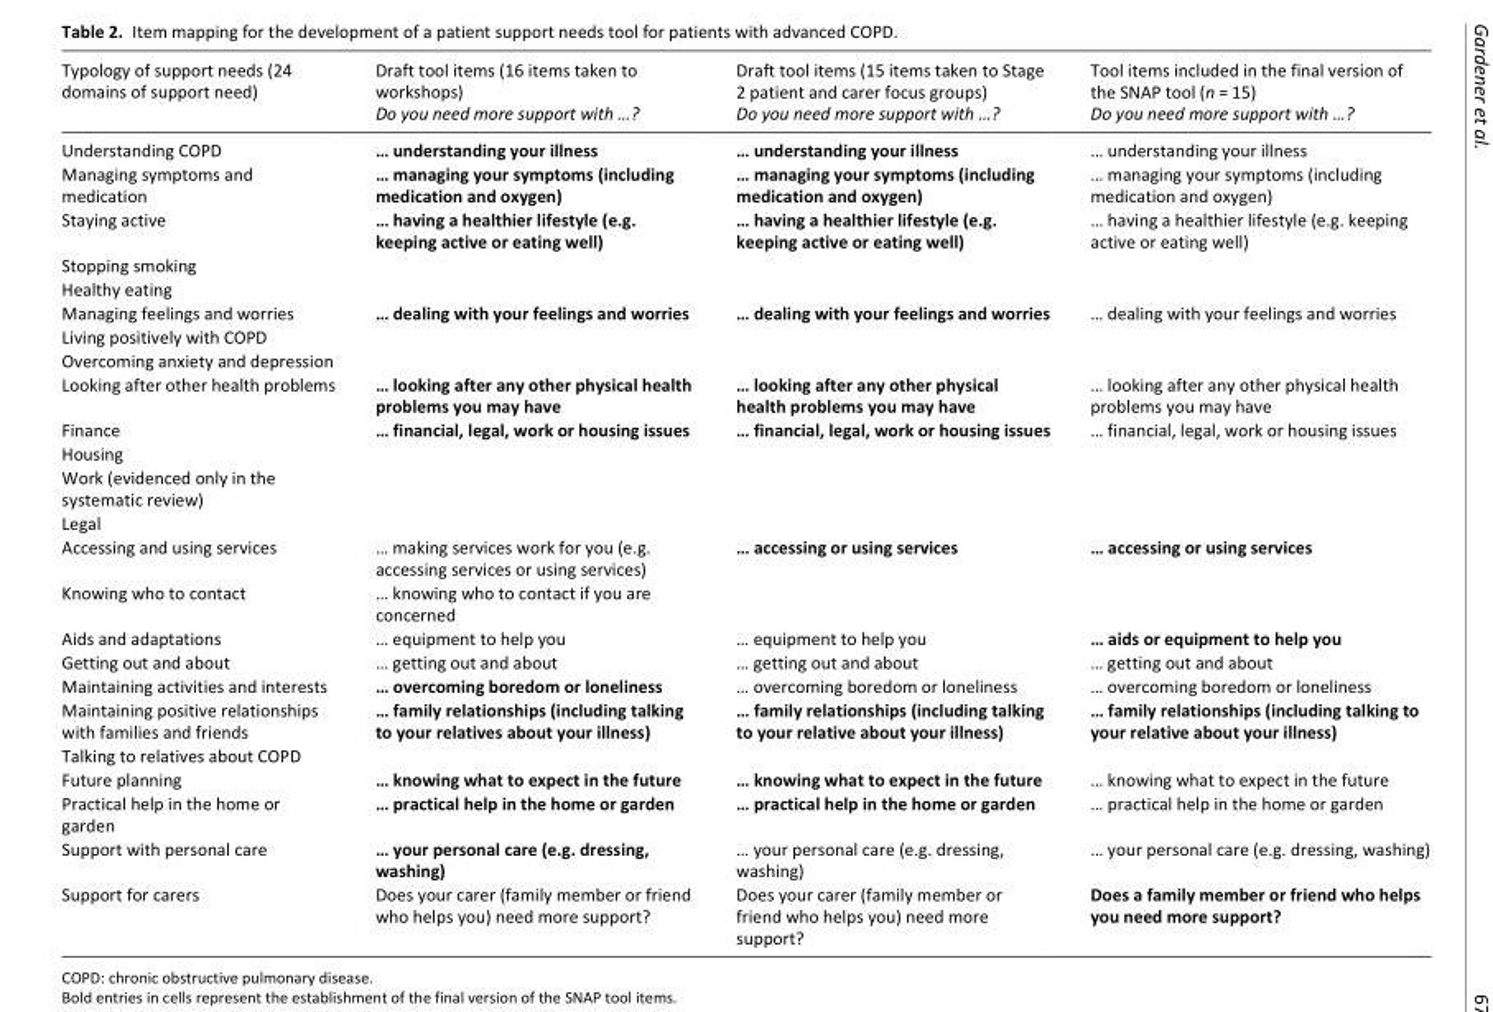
<table><thead><tr><td>Typology of support needs (24 domains of support need)</td><td>Draft tool items (16 items taken to workshops) Do you need more support with …?</td><td>Draft tool items (15 items taken to Stage 2 patient and carer focus groups) Do you need more support with …?</td><td>Tool items included in the final version of the SNAP tool (n = 15) Do you need more support with …?</td></tr></thead><tbody><tr><td>Understanding COPD</td><td>… understanding your illness</td><td>… understanding your illness</td><td>… understanding your illness</td></tr><tr><td>Managing symptoms and medication</td><td>… managing your symptoms (including medication and oxygen)</td><td>… managing your symptoms (including medication and oxygen)</td><td>… managing your symptoms (including medication and oxygen)</td></tr><tr><td>Staying active</td><td>… having a healthier lifestyle (e.g. keeping active or eating well)</td><td rowspan="3">… having a healthier lifestyle (e.g. keeping active or eating well)</td><td rowspan="3">… having a healthier lifestyle (e.g. keeping active or eating well)</td></tr><tr><td colspan="2">Stopping smoking</td></tr><tr><td colspan="2">Healthy eating</td></tr><tr><td>Managing feelings and worries</td><td>… dealing with your feelings and worries</td><td rowspan="3">… dealing with your feelings and worries</td><td rowspan="3">… dealing with your feelings and worries</td></tr><tr><td colspan="2">Living positively with COPD</td></tr><tr><td colspan="2">Overcoming anxiety and depression</td></tr><tr><td>Looking after other health problems</td><td>… looking after any other physical health problems you may have</td><td>… looking after any other physical health problems you may have</td><td>… looking after any other physical health problems you may have</td></tr><tr><td>Finance</td><td>… financial, legal, work or housing issues</td><td rowspan="4">… financial, legal, work or housing issues</td><td rowspan="4">… financial, legal, work or housing issues</td></tr><tr><td colspan="2">Housing</td></tr><tr><td colspan="2">Work (evidenced only in the systematic review)</td></tr><tr><td colspan="2">Legal</td></tr><tr><td>Accessing and using services</td><td>… making services work for you (e.g. accessing services or using services)</td><td>… accessing or using services</td><td>… accessing or using services</td></tr><tr><td>Knowing who to contact</td><td>… knowing who to contact if you are concerned</td><td></td><td></td></tr><tr><td>Aids and adaptations</td><td>… equipment to help you</td><td>… equipment to help you</td><td>… aids or equipment to help you</td></tr><tr><td>Getting out and about</td><td>… getting out and about</td><td>… getting out and about</td><td>… getting out and about</td></tr><tr><td>Maintaining activities and interests</td><td>… overcoming boredom or loneliness</td><td>… overcoming boredom or loneliness</td><td>… overcoming boredom or loneliness</td></tr><tr><td>Maintaining positive relationships with families and friends</td><td>… family relationships (including talking to your relatives about your illness)</td><td rowspan="2">… family relationships (including talking to your relative about your illness)</td><td rowspan="2">… family relationships (including talking to your relative about your illness)</td></tr><tr><td colspan="2">Talking to relatives about COPD</td></tr><tr><td>Future planning</td><td>… knowing what to expect in the future</td><td>… knowing what to expect in the future</td><td>… knowing what to expect in the future</td></tr><tr><td>Practical help in the home or garden</td><td>… practical help in the home or garden</td><td>… practical help in the home or garden</td><td>… practical help in the home or garden</td></tr><tr><td>Support with personal care</td><td>… your personal care (e.g. dressing, washing)</td><td>… your personal care (e.g. dressing, washing)</td><td>… your personal care (e.g. dressing, washing)</td></tr><tr><td>Support for carers</td><td>Does your carer (family member or friend who helps you) need more support?</td><td>Does your carer (family member or friend who helps you) need more support?</td><td>Does a family member or friend who helps you need more support?</td></tr></tbody></table>